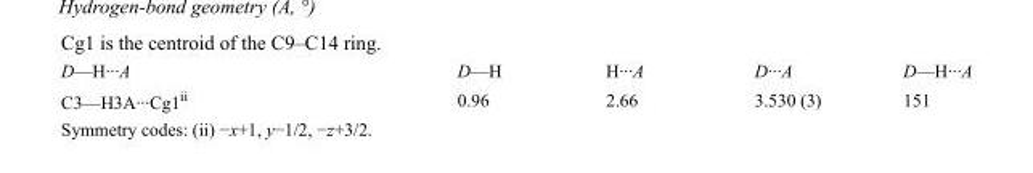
<table><tbody><tr><td>D—H···A</td><td>D—H</td><td>H···A</td><td>D···A</td><td>D—H···A</td></tr><tr><td>C3—H3A···Cg1<sup>ii</sup></td><td>0.96</td><td>2.66</td><td>3.530 (3)</td><td>151</td></tr></tbody></table>